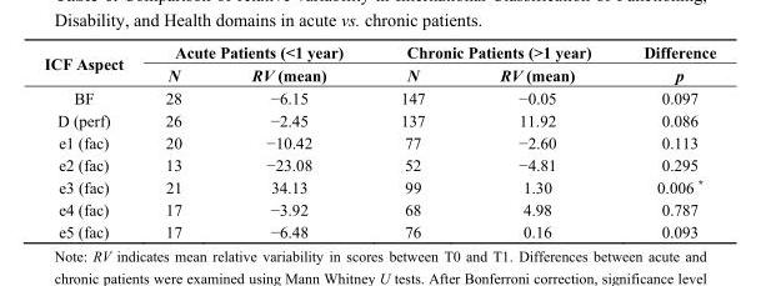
<table><thead><tr><td rowspan="2">ICF Aspect</td><td colspan="2">Acute Patients (&lt;1 year)</td><td colspan="2">Chronic Patients (&gt;1 year)</td><td rowspan="2">Difference p</td></tr><tr><td>N</td><td>RV (mean)</td><td>N</td><td>RV (mean)</td></tr></thead><tbody><tr><td>BF</td><td>28</td><td>−6.15</td><td>147</td><td>−0.05</td><td>0.097</td></tr><tr><td>D (perf)</td><td>26</td><td>−2.45</td><td>137</td><td>11.92</td><td>0.086</td></tr><tr><td>e1 (fac)</td><td>20</td><td>−10.42</td><td>77</td><td>−2.60</td><td>0.113</td></tr><tr><td>e2 (fac)</td><td>13</td><td>−23.08</td><td>52</td><td>−4.81</td><td>0.295</td></tr><tr><td>e3 (fac)</td><td>21</td><td>34.13</td><td>99</td><td>1.30</td><td>0.006 *</td></tr><tr><td>e4 (fac)</td><td>17</td><td>−3.92</td><td>68</td><td>4.98</td><td>0.787</td></tr><tr><td>e5 (fac)</td><td>17</td><td>−6.48</td><td>76</td><td>0.16</td><td>0.093</td></tr></tbody></table>